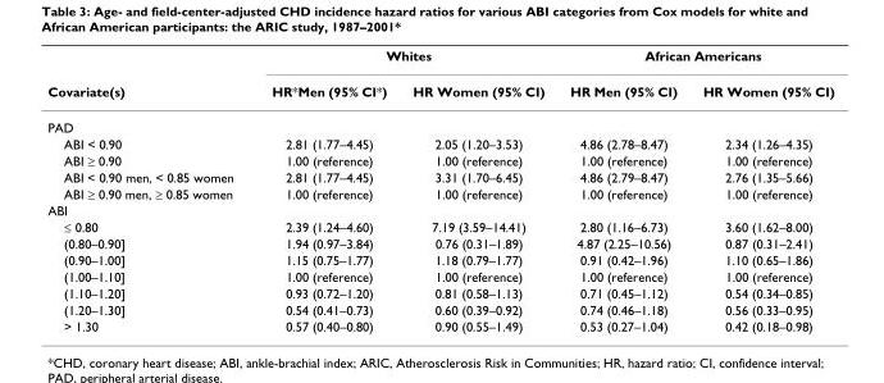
<table><thead><tr><td rowspan="2">Covariate(s)</td><td colspan="2">Whites</td><td colspan="2">African Americans</td></tr><tr><td>HR*Men (95% CI*)</td><td>HR Women (95% CI)</td><td>HR Men (95% CI)</td><td>HR Women (95% CI)</td></tr></thead><tbody><tr><td colspan="5">PAD</td></tr><tr><td>ABI &lt; 0.90</td><td>2.81 (1.77–4.45)</td><td>2.05 (1.20–3.53)</td><td>4.86 (2.78–8.47)</td><td>2.34 (1.26–4.35)</td></tr><tr><td>ABI ≥ 0.90</td><td>1.00 (reference)</td><td>1.00 (reference)</td><td>1.00 (reference)</td><td>1.00 (reference)</td></tr><tr><td>ABI &lt; 0.90 men, &lt; 0.85 women</td><td>2.81 (1.77–4.45)</td><td>3.31 (1.70–6.45)</td><td>4.86 (2.79–8.47)</td><td>2.76 (1.35–5.66)</td></tr><tr><td>ABI ≥ 0.90 men, ≥ 0.85 women</td><td>1.00 (reference)</td><td>1.00 (reference)</td><td>1.00 (reference)</td><td>1.00 (reference)</td></tr><tr><td colspan="5">ABI</td></tr><tr><td>≤ 0.80</td><td>2.39 (1.24–4.60)</td><td>7.19 (3.59–14.41)</td><td>2.80 (1.16–6.73)</td><td>3.60 (1.62–8.00)</td></tr><tr><td>(0.80–0.90]</td><td>1.94 (0.97–3.84)</td><td>0.76 (0.31–1.89)</td><td>4.87 (2.25–10.56)</td><td>0.87 (0.31–2.41)</td></tr><tr><td>(0.90–1.00]</td><td>1.15 (0.75–1.77)</td><td>1.18 (0.79–1.77)</td><td>0.91 (0.42–1.96)</td><td>1.10 (0.65–1.86)</td></tr><tr><td>(1.00–1.10]</td><td>1.00 (reference)</td><td>1.00 (reference)</td><td>1.00 (reference)</td><td>1.00 (reference)</td></tr><tr><td>(1.10–1.20]</td><td>0.93 (0.72–1.20)</td><td>0.81 (0.58–1.13)</td><td>0.71 (0.45–1.12)</td><td>0.54 (0.34–0.85)</td></tr><tr><td>(1.20–1.30]</td><td>0.54 (0.41–0.73)</td><td>0.60 (0.39–0.92)</td><td>0.74 (0.46–1.18)</td><td>0.56 (0.33–0.95)</td></tr><tr><td>&gt; 1.30</td><td>0.57 (0.40–0.80)</td><td>0.90 (0.55–1.49)</td><td>0.53 (0.27–1.04)</td><td>0.42 (0.18–0.98)</td></tr></tbody></table>